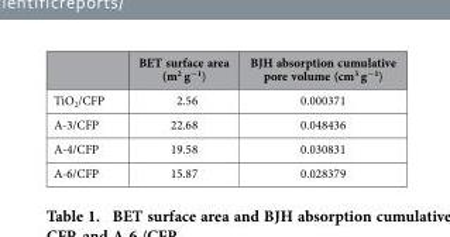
<table><thead><tr><td></td><td>BET surface area (m<sup>2</sup> g<sup>−1</sup>)</td><td>BJH absorption cumulative pore volume (cm<sup>3</sup> g<sup>−1</sup>)</td></tr></thead><tbody><tr><td>TiO<sub>2</sub>/CFP</td><td>2.56</td><td>0.000371</td></tr><tr><td>A-3/CFP</td><td>22.68</td><td>0.048436</td></tr><tr><td>A-4/CFP</td><td>19.58</td><td>0.030831</td></tr><tr><td>A-6/CFP</td><td>15.87</td><td>0.028379</td></tr></tbody></table>